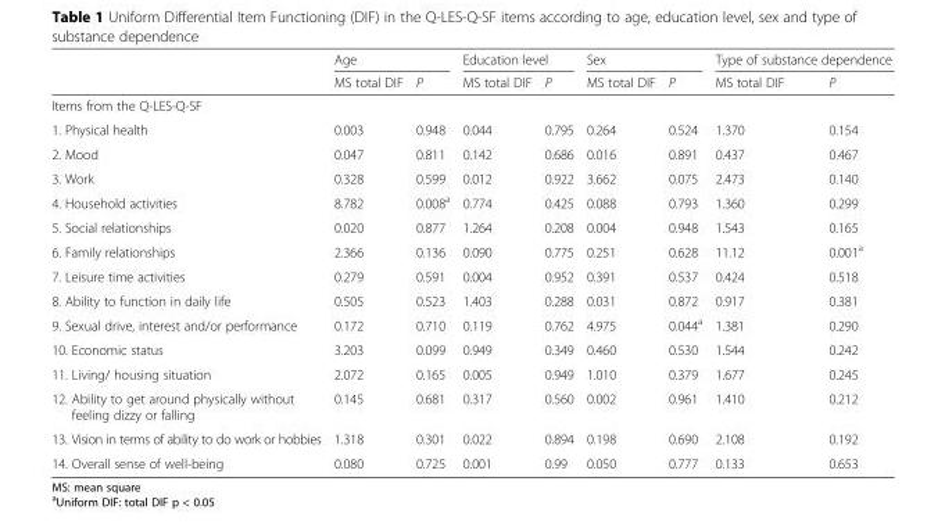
<table><thead><tr><td rowspan="2"></td><td colspan="2">Age</td><td colspan="2">Education level</td><td colspan="2">Sex</td><td colspan="2">Type of substance dependence</td></tr><tr><td>MS total DIF</td><td>P</td><td>MS total DIF</td><td>P</td><td>MS total DIF</td><td>P</td><td>MS total DIF</td><td>P</td></tr></thead><tbody><tr><td colspan="9">Items from the Q-LES-Q-SF</td></tr><tr><td>1. Physical health</td><td>0.003</td><td>0.948</td><td>0.044</td><td>0.795</td><td>0.264</td><td>0.524</td><td>1.370</td><td>0.154</td></tr><tr><td>2. Mood</td><td>0.047</td><td>0.811</td><td>0.142</td><td>0.686</td><td>0.016</td><td>0.891</td><td>0.437</td><td>0.467</td></tr><tr><td>3. Work</td><td>0.328</td><td>0.599</td><td>0.012</td><td>0.922</td><td>3.662</td><td>0.075</td><td>2.473</td><td>0.140</td></tr><tr><td>4. Household activities</td><td>8.782</td><td>0.008<sup>a</sup></td><td>0.774</td><td>0.425</td><td>0.088</td><td>0.793</td><td>1.360</td><td>0.299</td></tr><tr><td>5. Social relationships</td><td>0.020</td><td>0.877</td><td>1.264</td><td>0.208</td><td>0.004</td><td>0.948</td><td>1.543</td><td>0.165</td></tr><tr><td>6. Family relationships</td><td>2.366</td><td>0.136</td><td>0.090</td><td>0.775</td><td>0.251</td><td>0.628</td><td>11.12</td><td>0.001<sup>a</sup></td></tr><tr><td>7. Leisure time activities</td><td>0.279</td><td>0.591</td><td>0.004</td><td>0.952</td><td>0.391</td><td>0.537</td><td>0.424</td><td>0.518</td></tr><tr><td>8. Ability to function in daily life</td><td>0.505</td><td>0.523</td><td>1.403</td><td>0.288</td><td>0.031</td><td>0.872</td><td>0.917</td><td>0.381</td></tr><tr><td>9. Sexual drive, interest and/or performance</td><td>0.172</td><td>0.710</td><td>0.119</td><td>0.762</td><td>4.975</td><td>0.044<sup>a</sup></td><td>1.381</td><td>0.290</td></tr><tr><td>10. Economic status</td><td>3.203</td><td>0.099</td><td>0.949</td><td>0.349</td><td>0.460</td><td>0.530</td><td>1.544</td><td>0.242</td></tr><tr><td>11. Living/ housing situation</td><td>2.072</td><td>0.165</td><td>0.005</td><td>0.949</td><td>1.010</td><td>0.379</td><td>1.677</td><td>0.245</td></tr><tr><td>12. Ability to get around physically without feeling dizzy or falling</td><td>0.145</td><td>0.681</td><td>0.317</td><td>0.560</td><td>0.002</td><td>0.961</td><td>1.410</td><td>0.212</td></tr><tr><td>13. Vision in terms of ability to do work or hobbies</td><td>1.318</td><td>0.301</td><td>0.022</td><td>0.894</td><td>0.198</td><td>0.690</td><td>2.108</td><td>0.192</td></tr><tr><td>14. Overall sense of well-being</td><td>0.080</td><td>0.725</td><td>0.001</td><td>0.99</td><td>0.050</td><td>0.777</td><td>0.133</td><td>0.653</td></tr></tbody></table>